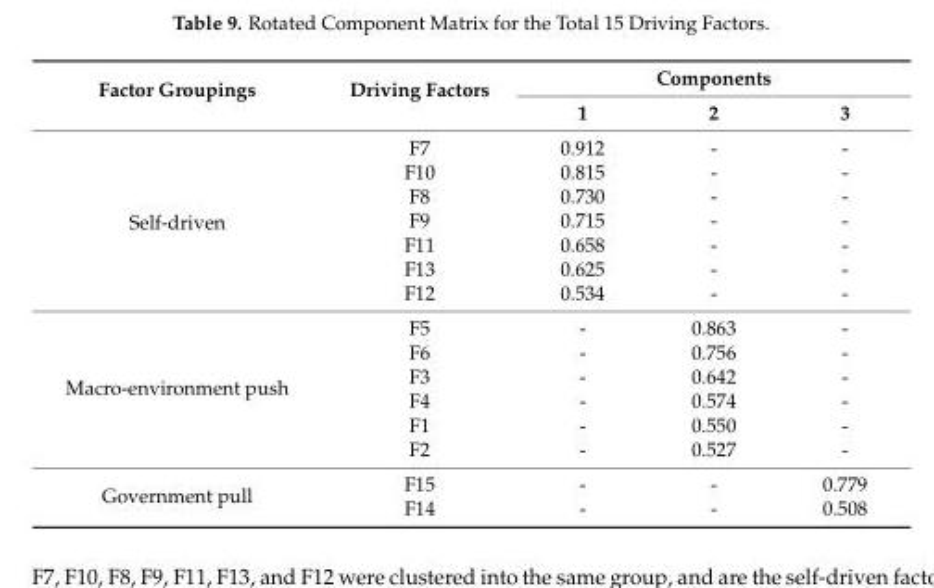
<table><thead><tr><td rowspan="2">Factor Groupings</td><td rowspan="2">Driving Factors</td><td colspan="3">Components</td></tr><tr><td>1</td><td>2</td><td>3</td></tr></thead><tbody><tr><td rowspan="7">Self-driven</td><td>F7</td><td>0.912</td><td>-</td><td>-</td></tr><tr><td>F10</td><td>0.815</td><td>-</td><td>-</td></tr><tr><td>F8</td><td>0.730</td><td>-</td><td>-</td></tr><tr><td>F9</td><td>0.715</td><td>-</td><td>-</td></tr><tr><td>F11</td><td>0.658</td><td>-</td><td>-</td></tr><tr><td>F13</td><td>0.625</td><td>-</td><td>-</td></tr><tr><td>F12</td><td>0.534</td><td>-</td><td>-</td></tr><tr><td rowspan="6">Macro-environment push</td><td>F5</td><td>-</td><td>0.863</td><td>-</td></tr><tr><td>F6</td><td>-</td><td>0.756</td><td>-</td></tr><tr><td>F3</td><td>-</td><td>0.642</td><td>-</td></tr><tr><td>F4</td><td>-</td><td>0.574</td><td>-</td></tr><tr><td>F1</td><td>-</td><td>0.550</td><td>-</td></tr><tr><td>F2</td><td>-</td><td>0.527</td><td>-</td></tr><tr><td rowspan="2">Government pull</td><td>F15</td><td>-</td><td>-</td><td>0.779</td></tr><tr><td>F14</td><td>-</td><td>-</td><td>0.508</td></tr></tbody></table>